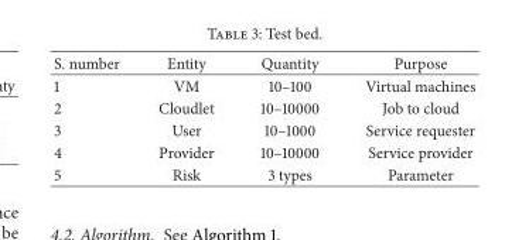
<table><thead><tr><td>S. number</td><td>Entity</td><td>Quantity</td><td>Purpose</td></tr></thead><tbody><tr><td>1</td><td>VM</td><td>10–100</td><td>Virtual machines</td></tr><tr><td>2</td><td>Cloudlet</td><td>10–10000</td><td>Job to cloud</td></tr><tr><td>3</td><td>User</td><td>10–1000</td><td>Service requester</td></tr><tr><td>4</td><td>Provider</td><td>10–10000</td><td>Service provider</td></tr><tr><td>5</td><td>Risk</td><td>3 types</td><td>Parameter</td></tr></tbody></table>